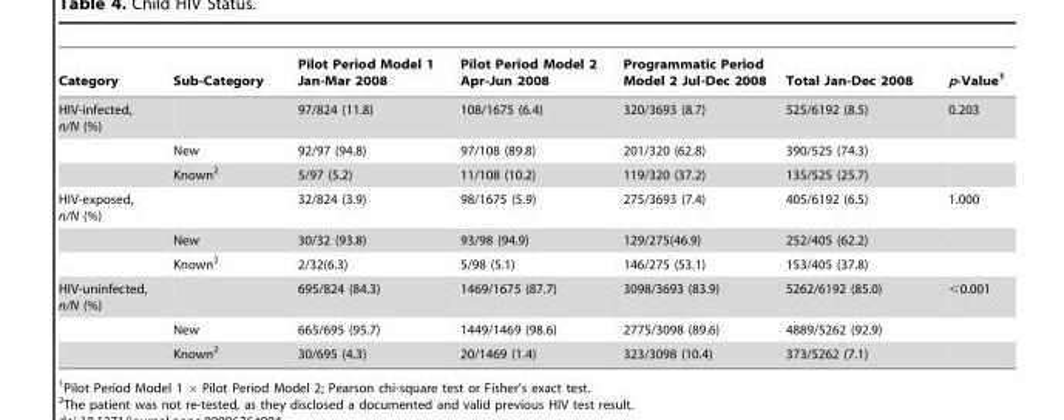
<table><thead><tr><td>Category</td><td>Sub-Category</td><td>Pilot Period Model 1 Jan-Mar 2008</td><td>Pilot Period Model 2 Apr-Jun 2008</td><td>Programmatic Period Model 2 Jul-Dec 2008</td><td>Total Jan-Dec 2008</td><td>p-Value<sup>1</sup></td></tr></thead><tbody><tr><td rowspan="3">HIV-infected, n/N (%)</td><td></td><td>97/824 (11.8)</td><td>108/1675 (6.4)</td><td>320/3693 (8.7)</td><td>525/6192 (8.5)</td><td>0.203</td></tr><tr><td>New</td><td>92/97 (94.8)</td><td>97/108 (89.8)</td><td>201/320 (62.8)</td><td>390/525 (74.3)</td><td></td></tr><tr><td>Known<sup>2</sup></td><td>5/97 (5.2)</td><td>11/108 (10.2)</td><td>119/320 (37.2)</td><td>135/525 (25.7)</td><td></td></tr><tr><td rowspan="3">HIV-exposed, n/N (%)</td><td></td><td>32/824 (3.9)</td><td>98/1675 (5.9)</td><td>275/3693 (7.4)</td><td>405/6192 (6.5)</td><td>1.000</td></tr><tr><td>New</td><td>30/32 (93.8)</td><td>93/98 (94.9)</td><td>129/275(46.9)</td><td>252/405 (62.2)</td><td></td></tr><tr><td>Known<sup>2</sup></td><td>2/32(6.3)</td><td>5/98 (5.1)</td><td>146/275 (53.1)</td><td>153/405 (37.8)</td><td></td></tr><tr><td rowspan="3">HIV-uninfected, n/N (%)</td><td></td><td>695/824 (84.3)</td><td>1469/1675 (87.7)</td><td>3098/3693 (83.9)</td><td>5262/6192 (85.0)</td><td>&lt;0.001</td></tr><tr><td>New</td><td>665/695 (95.7)</td><td>1449/1469 (98.6)</td><td>2775/3098 (89.6)</td><td>4889/5262 (92.9)</td><td></td></tr><tr><td>Known<sup>2</sup></td><td>30/695 (4.3)</td><td>20/1469 (1.4)</td><td>323/3098 (10.4)</td><td>373/5262 (7.1)</td><td></td></tr></tbody></table>